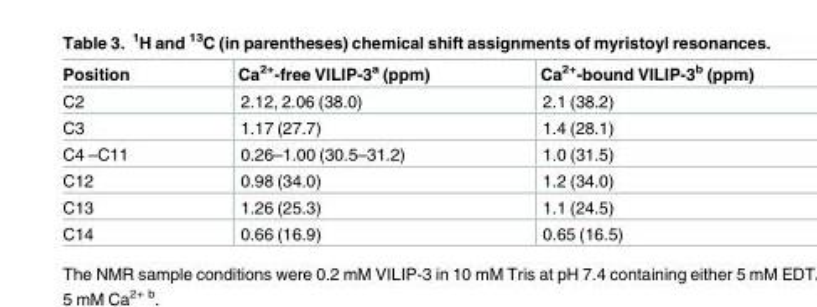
<table><thead><tr><td>Position</td><td>Ca<sup>2+</sup>-free VILIP-3<sup>a</sup> (ppm)</td><td>Ca<sup>2+</sup>-bound VILIP-3<sup>b</sup> (ppm)</td></tr></thead><tbody><tr><td>C2</td><td>2.12, 2.06 (38.0)</td><td>2.1 (38.2)</td></tr><tr><td>C3</td><td>1.17 (27.7)</td><td>1.4 (28.1)</td></tr><tr><td>C4 –C11</td><td>0.26–1.00 (30.5–31.2)</td><td>1.0 (31.5)</td></tr><tr><td>C12</td><td>0.98 (34.0)</td><td>1.2 (34.0)</td></tr><tr><td>C13</td><td>1.26 (25.3)</td><td>1.1 (24.5)</td></tr><tr><td>C14</td><td>0.66 (16.9)</td><td>0.65 (16.5)</td></tr></tbody></table>